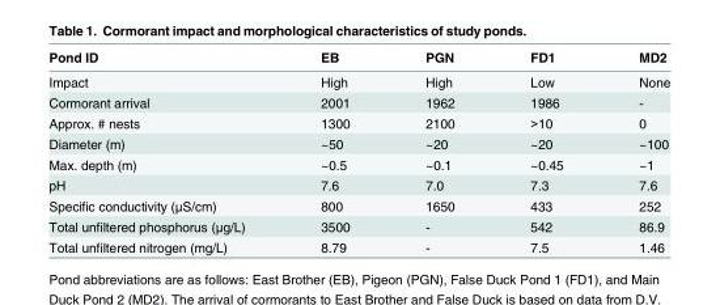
<table><thead><tr><td>Pond ID</td><td>EB</td><td>PGN</td><td>FD1</td><td>MD2</td></tr></thead><tbody><tr><td>Impact</td><td>High</td><td>High</td><td>Low</td><td>None</td></tr><tr><td>Cormorant arrival</td><td>2001</td><td>1962</td><td>1986</td><td>-</td></tr><tr><td>Approx. # nests</td><td>1300</td><td>2100</td><td>&gt;10</td><td>0</td></tr><tr><td>Diameter (m)</td><td>~50</td><td>~20</td><td>~20</td><td>~100</td></tr><tr><td>Max. depth (m)</td><td>~0.5</td><td>~0.1</td><td>~0.45</td><td>~1</td></tr><tr><td>pH</td><td>7.6</td><td>7.0</td><td>7.3</td><td>7.6</td></tr><tr><td>Specific conductivity (μS/cm)</td><td>800</td><td>1650</td><td>433</td><td>252</td></tr><tr><td>Total unfiltered phosphorus (μg/L)</td><td>3500</td><td>-</td><td>542</td><td>86.9</td></tr><tr><td>Total unfiltered nitrogen (mg/L)</td><td>8.79</td><td>-</td><td>7.5</td><td>1.46</td></tr></tbody></table>